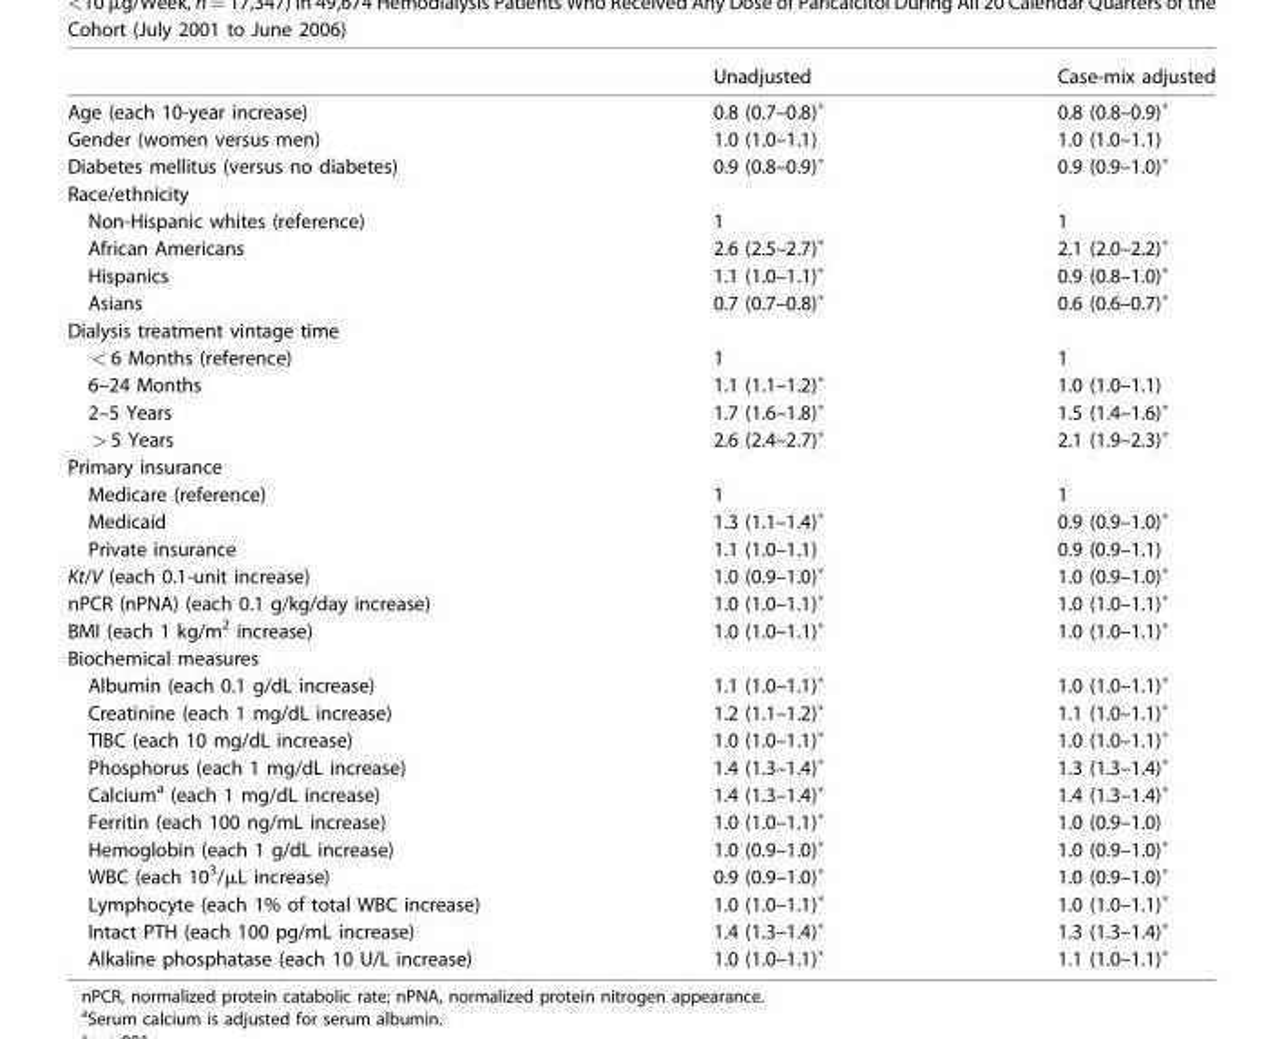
<table><thead><tr><td></td><td>Unadjusted</td><td>Case-mix adjusted</td></tr></thead><tbody><tr><td>Age (each 10-year increase)</td><td>0.8 (0.7–0.8)*</td><td>0.8 (0.8–0.9)*</td></tr><tr><td>Gender (women versus men)</td><td>1.0 (1.0–1.1)</td><td>1.0 (1.0–1.1)</td></tr><tr><td>Diabetes mellitus (versus no diabetes)</td><td>0.9 (0.8–0.9)*</td><td>0.9 (0.9–1.0)*</td></tr><tr><td colspan="3">Race/ethnicity</td></tr><tr><td>Non-Hispanic whites (reference)</td><td>1</td><td>1</td></tr><tr><td>African Americans</td><td>2.6 (2.5–2.7)*</td><td>2.1 (2.0–2.2)*</td></tr><tr><td>Hispanics</td><td>1.1 (1.0–1.1)*</td><td>0.9 (0.8–1.0)*</td></tr><tr><td>Asians</td><td>0.7 (0.7–0.8)*</td><td>0.6 (0.6–0.7)*</td></tr><tr><td colspan="3">Dialysis treatment vintage time</td></tr><tr><td>&lt; 6 Months (reference)</td><td>1</td><td>1</td></tr><tr><td>6–24 Months</td><td>1.1 (1.1–1.2)*</td><td>1.0 (1.0–1.1)</td></tr><tr><td>2–5 Years</td><td>1.7 (1.6–1.8)*</td><td>1.5 (1.4–1.6)*</td></tr><tr><td>&gt; 5 Years</td><td>2.6 (2.4–2.7)*</td><td>2.1 (1.9–2.3)*</td></tr><tr><td colspan="3">Primary insurance</td></tr><tr><td>Medicare (reference)</td><td>1</td><td>1</td></tr><tr><td>Medicaid</td><td>1.3 (1.1–1.4)*</td><td>0.9 (0.9–1.0)*</td></tr><tr><td>Private insurance</td><td>1.1 (1.0–1.1)</td><td>0.9 (0.9–1.1)</td></tr><tr><td>Kt/V (each 0.1-unit increase)</td><td>1.0 (0.9–1.0)*</td><td>1.0 (0.9–1.0)*</td></tr><tr><td>nPCR (nPNA) (each 0.1 g/kg/day increase)</td><td>1.0 (1.0–1.1)*</td><td>1.0 (1.0–1.1)*</td></tr><tr><td>BMI (each 1 kg/m<sup>2</sup> increase)</td><td>1.0 (1.0–1.1)*</td><td>1.0 (1.0–1.1)*</td></tr><tr><td colspan="3">Biochemical measures</td></tr><tr><td>Albumin (each 0.1 g/dL increase)</td><td>1.1 (1.0–1.1)*</td><td>1.0 (1.0–1.1)*</td></tr><tr><td>Creatinine (each 1 mg/dL increase)</td><td>1.2 (1.1–1.2)*</td><td>1.1 (1.0–1.1)*</td></tr><tr><td>TIBC (each 10 mg/dL increase)</td><td>1.0 (1.0–1.1)*</td><td>1.0 (1.0–1.1)*</td></tr><tr><td>Phosphorus (each 1 mg/dL increase)</td><td>1.4 (1.3–1.4)*</td><td>1.3 (1.3–1.4)*</td></tr><tr><td>Calcium<sup>a</sup> (each 1 mg/dL increase)</td><td>1.4 (1.3–1.4)*</td><td>1.4 (1.3–1.4)*</td></tr><tr><td>Ferritin (each 100 ng/mL increase)</td><td>1.0 (1.0–1.1)*</td><td>1.0 (0.9–1.0)</td></tr><tr><td>Hemoglobin (each 1 g/dL increase)</td><td>1.0 (0.9–1.0)*</td><td>1.0 (0.9–1.0)*</td></tr><tr><td>WBC (each 10<sup>3</sup>/µL increase)</td><td>0.9 (0.9–1.0)*</td><td>1.0 (0.9–1.0)*</td></tr><tr><td>Lymphocyte (each 1% of total WBC increase)</td><td>1.0 (1.0–1.1)*</td><td>1.0 (1.0–1.1)*</td></tr><tr><td>Intact PTH (each 100 pg/mL increase)</td><td>1.4 (1.3–1.4)*</td><td>1.3 (1.3–1.4)*</td></tr><tr><td>Alkaline phosphatase (each 10 U/L increase)</td><td>1.0 (1.0–1.1)*</td><td>1.1 (1.0–1.1)*</td></tr></tbody></table>